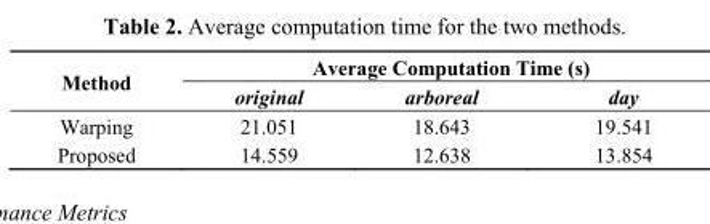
<table><thead><tr><td rowspan="2">Method</td><td colspan="3">Average Computation Time (s)</td></tr><tr><td>original</td><td>arboreal</td><td>day</td></tr></thead><tbody><tr><td>Warping</td><td>21.051</td><td>18.643</td><td>19.541</td></tr><tr><td>Proposed</td><td>14.559</td><td>12.638</td><td>13.854</td></tr></tbody></table>